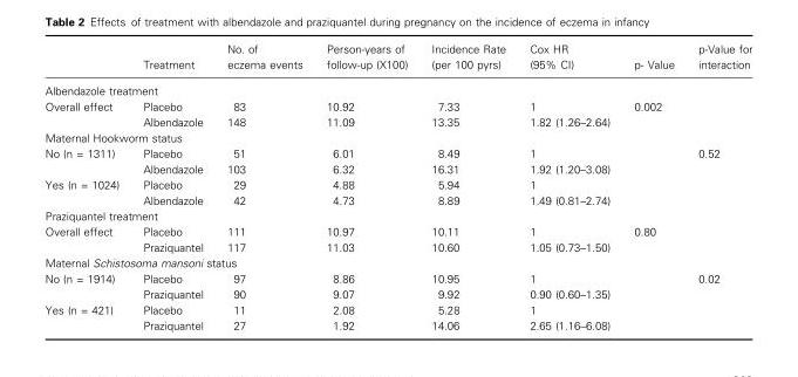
<table><thead><tr><td></td><td>Treatment</td><td>No. of eczema events</td><td>Person-years of follow-up (X100)</td><td>Incidence Rate (per 100 pyrs)</td><td>Cox HR (95% CI)</td><td>p- Value</td><td>p-Value for interaction</td></tr></thead><tbody><tr><td colspan="8">Albendazole treatment</td></tr><tr><td rowspan="2">Overall effect</td><td>Placebo</td><td>83</td><td>10.92</td><td>7.33</td><td>1</td><td>0.002</td><td></td></tr><tr><td>Albendazole</td><td>148</td><td>11.09</td><td>13.35</td><td>1.82 (1.26–2.64)</td><td></td><td></td></tr><tr><td colspan="8">Maternal Hookworm status</td></tr><tr><td rowspan="2">No (n = 1311)</td><td>Placebo</td><td>51</td><td>6.01</td><td>8.49</td><td>1</td><td></td><td>0.52</td></tr><tr><td>Albendazole</td><td>103</td><td>6.32</td><td>16.31</td><td>1.92 (1.20–3.08)</td><td></td><td></td></tr><tr><td rowspan="2">Yes (n = 1024)</td><td>Placebo</td><td>29</td><td>4.88</td><td>5.94</td><td>1</td><td></td><td></td></tr><tr><td>Albendazole</td><td>42</td><td>4.73</td><td>8.89</td><td>1.49 (0.81–2.74)</td><td></td><td></td></tr><tr><td colspan="8">Praziquantel treatment</td></tr><tr><td rowspan="2">Overall effect</td><td>Placebo</td><td>111</td><td>10.97</td><td>10.11</td><td>1</td><td>0.80</td><td></td></tr><tr><td>Praziquantel</td><td>117</td><td>11.03</td><td>10.60</td><td>1.05 (0.73–1.50)</td><td></td><td></td></tr><tr><td colspan="8">Maternal Schistosoma mansoni status</td></tr><tr><td rowspan="2">No (n = 1914)</td><td>Placebo</td><td>97</td><td>8.86</td><td>10.95</td><td>1</td><td></td><td>0.02</td></tr><tr><td>Praziquantel</td><td>90</td><td>9.07</td><td>9.92</td><td>0.90 (0.60–1.35)</td><td></td><td></td></tr><tr><td rowspan="2">Yes (n = 421)</td><td>Placebo</td><td>11</td><td>2.08</td><td>5.28</td><td>1</td><td></td><td></td></tr><tr><td>Praziquantel</td><td>27</td><td>1.92</td><td>14.06</td><td>2.65 (1.16–6.08)</td><td></td><td></td></tr></tbody></table>